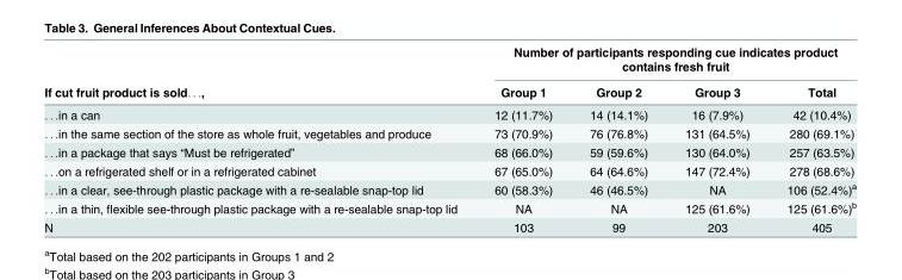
<table><thead><tr><td rowspan="2">If cut fruit product is sold. . .,</td><td colspan="4">Number of participants responding cue indicates product contains fresh fruit</td></tr><tr><td>Group 1</td><td>Group 2</td><td>Group 3</td><td>Total</td></tr></thead><tbody><tr><td>. . .in a can</td><td>12 (11.7%)</td><td>14 (14.1%)</td><td>16 (7.9%)</td><td>42 (10.4%)</td></tr><tr><td>. . .in the same section of the store as whole fruit, vegetables and produce</td><td>73 (70.9%)</td><td>76 (76.8%)</td><td>131 (64.5%)</td><td>280 (69.1%)</td></tr><tr><td>. . .in a package that says “Must be refrigerated”</td><td>68 (66.0%)</td><td>59 (59.6%)</td><td>130 (64.0%)</td><td>257 (63.5%)</td></tr><tr><td>. . .on a refrigerated shelf or in a refrigerated cabinet</td><td>67 (65.0%)</td><td>64 (64.6%)</td><td>147 (72.4%)</td><td>278 (68.6%)</td></tr><tr><td>. . .in a clear, see-through plastic package with a re-sealable snap-top lid</td><td>60 (58.3%)</td><td>46 (46.5%)</td><td>NA</td><td>106 (52.4%)<sup>a</sup></td></tr><tr><td>. . .in a thin, flexible see-through plastic package with a re-sealable snap-top lid</td><td>NA</td><td>NA</td><td>125 (61.6%)</td><td>125 (61.6%)<sup>b</sup></td></tr><tr><td>N</td><td>103</td><td>99</td><td>203</td><td>405</td></tr></tbody></table>